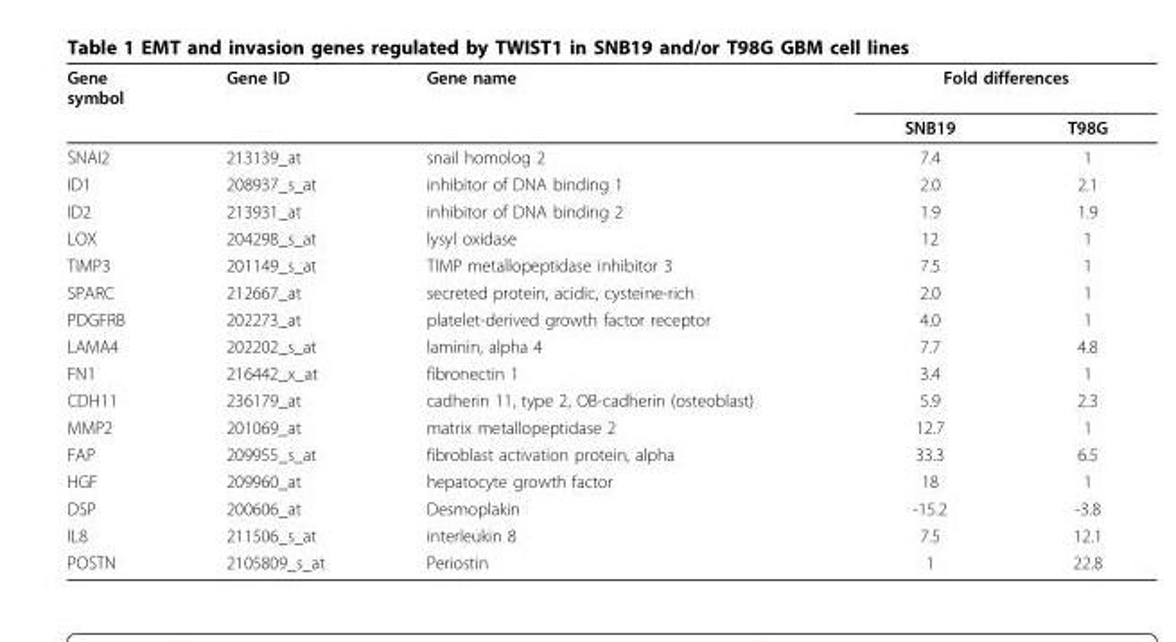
<table><thead><tr><td rowspan="2">Gene symbol</td><td rowspan="2">Gene ID</td><td rowspan="2">Gene name</td><td colspan="2">Fold differences</td></tr><tr><td>SNB19</td><td>T98G</td></tr></thead><tbody><tr><td>SNAI2</td><td>213139_at</td><td>snail homolog 2</td><td>7.4</td><td>1</td></tr><tr><td>ID1</td><td>208937_s_at</td><td>inhibitor of DNA binding 1</td><td>2.0</td><td>2.1</td></tr><tr><td>ID2</td><td>213931_at</td><td>inhibitor of DNA binding 2</td><td>1.9</td><td>1.9</td></tr><tr><td>LOX</td><td>204298_s_at</td><td>lysyl oxidase</td><td>12</td><td>1</td></tr><tr><td>TIMP3</td><td>201149_s_at</td><td>TIMP metallopeptidase inhibitor 3</td><td>7.5</td><td>1</td></tr><tr><td>SPARC</td><td>212667_at</td><td>secreted protein, acidic, cysteine-rich</td><td>2.0</td><td>1</td></tr><tr><td>PDGFRB</td><td>202273_at</td><td>platelet-derived growth factor receptor</td><td>4.0</td><td>1</td></tr><tr><td>LAMA4</td><td>202202_s_at</td><td>laminin, alpha 4</td><td>7.7</td><td>4.8</td></tr><tr><td>FN1</td><td>216442_x_at</td><td>fibronectin 1</td><td>3.4</td><td>1</td></tr><tr><td>CDH11</td><td>236179_at</td><td>cadherin 11, type 2, OB-cadherin (osteoblast)</td><td>5.9</td><td>2.3</td></tr><tr><td>MMP2</td><td>201069_at</td><td>matrix metallopeptidase 2</td><td>12.7</td><td>1</td></tr><tr><td>FAP</td><td>209955_s_at</td><td>fibroblast activation protein, alpha</td><td>33.3</td><td>6.5</td></tr><tr><td>HGF</td><td>209960_at</td><td>hepatocyte growth factor</td><td>18</td><td>1</td></tr><tr><td>DSP</td><td>200606_at</td><td>Desmoplakin</td><td>-15.2</td><td>-3.8</td></tr><tr><td>IL8</td><td>211506_s_at</td><td>interleukin 8</td><td>7.5</td><td>12.1</td></tr><tr><td>POSTN</td><td>2105809_s_at</td><td>Periostin</td><td>1</td><td>22.8</td></tr></tbody></table>